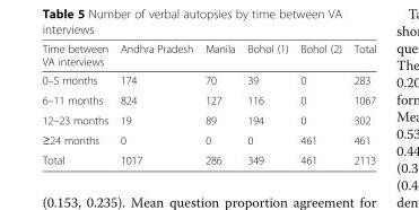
<table><thead><tr><td>Time between VA interviews</td><td>Andhra Pradesh</td><td>Manila</td><td>Bohol (1)</td><td>Bohol (2)</td><td>Total</td></tr></thead><tbody><tr><td>0–5 months</td><td>174</td><td>70</td><td>39</td><td>0</td><td>283</td></tr><tr><td>6–11 months</td><td>824</td><td>127</td><td>116</td><td>0</td><td>1067</td></tr><tr><td>12–23 months</td><td>19</td><td>89</td><td>194</td><td>0</td><td>302</td></tr><tr><td>≥24 months</td><td>0</td><td>0</td><td>0</td><td>461</td><td>461</td></tr><tr><td>Total</td><td>1017</td><td>286</td><td>349</td><td>461</td><td>2113</td></tr></tbody></table>